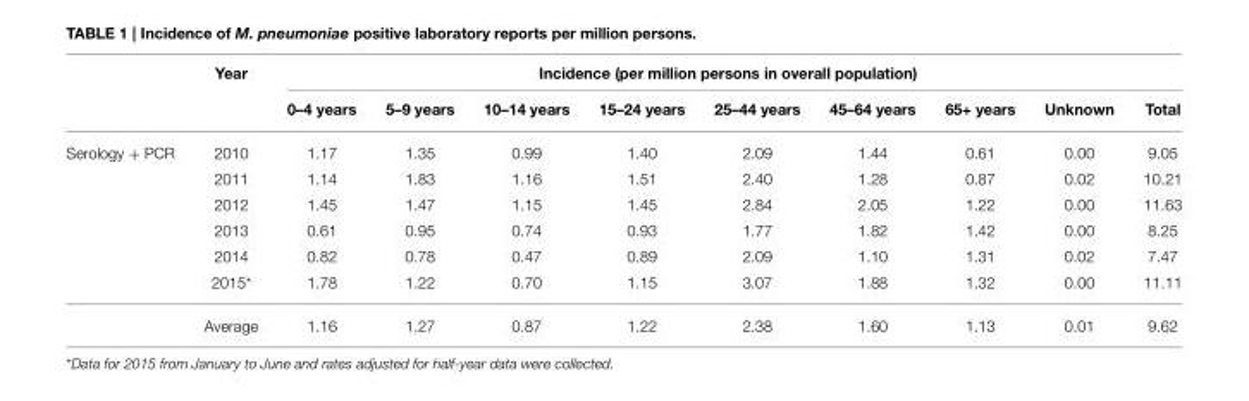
<table><thead><tr><td rowspan="2"></td><td rowspan="2">Year</td><td colspan="9">Incidence (per million persons in overall population)</td></tr><tr><td>0–4 years</td><td>5–9 years</td><td>10–14 years</td><td>15–24 years</td><td>25–44 years</td><td>45–64 years</td><td>65+ years</td><td>Unknown</td><td>Total</td></tr></thead><tbody><tr><td rowspan="7">Serology + PCR</td><td>2010</td><td>1.17</td><td>1.35</td><td>0.99</td><td>1.40</td><td>2.09</td><td>1.44</td><td>0.61</td><td>0.00</td><td>9.05</td></tr><tr><td>2011</td><td>1.14</td><td>1.83</td><td>1.16</td><td>1.51</td><td>2.40</td><td>1.28</td><td>0.87</td><td>0.02</td><td>10.21</td></tr><tr><td>2012</td><td>1.45</td><td>1.47</td><td>1.15</td><td>1.45</td><td>2.84</td><td>2.05</td><td>1.22</td><td>0.00</td><td>11.63</td></tr><tr><td>2013</td><td>0.61</td><td>0.95</td><td>0.74</td><td>0.93</td><td>1.77</td><td>1.82</td><td>1.42</td><td>0.00</td><td>8.25</td></tr><tr><td>2014</td><td>0.82</td><td>0.78</td><td>0.47</td><td>0.89</td><td>2.09</td><td>1.10</td><td>1.31</td><td>0.02</td><td>7.47</td></tr><tr><td>2015*</td><td>1.78</td><td>1.22</td><td>0.70</td><td>1.15</td><td>3.07</td><td>1.88</td><td>1.32</td><td>0.00</td><td>11.11</td></tr><tr><td>Average</td><td>1.16</td><td>1.27</td><td>0.87</td><td>1.22</td><td>2.38</td><td>1.60</td><td>1.13</td><td>0.01</td><td>9.62</td></tr></tbody></table>